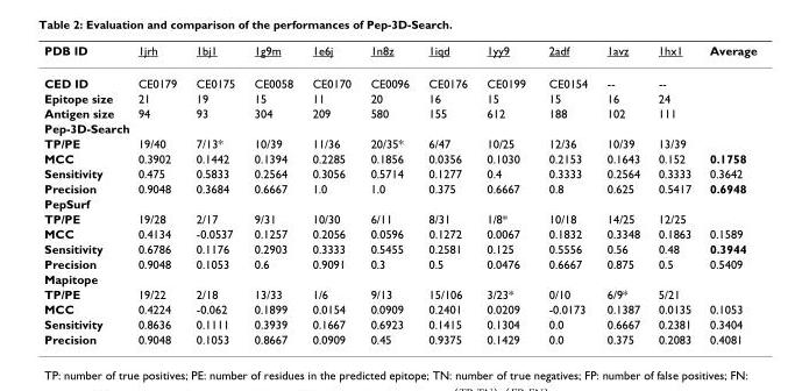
<table><thead><tr><td>PDB ID</td><td>1jrh</td><td>1bj1</td><td>1g9m</td><td>1e6j</td><td>1n8z</td><td>1iqd</td><td>1yy9</td><td>2adf</td><td>1avz</td><td>1hx1</td><td>Average</td></tr></thead><tbody><tr><td>CED ID</td><td>CE0179</td><td>CE0175</td><td>CE0058</td><td>CE0170</td><td>CE0096</td><td>CE0176</td><td>CE0199</td><td>CE0154</td><td>--</td><td>--</td><td></td></tr><tr><td>Epitope size</td><td>21</td><td>19</td><td>15</td><td>11</td><td>20</td><td>16</td><td>15</td><td>15</td><td>16</td><td>24</td><td></td></tr><tr><td>Antigen size</td><td>94</td><td>93</td><td>304</td><td>209</td><td>580</td><td>155</td><td>612</td><td>188</td><td>102</td><td>111</td><td></td></tr><tr><td colspan="12">Pep-3D-Search</td></tr><tr><td>TP/PE</td><td>19/40</td><td>7/13*</td><td>10/39</td><td>11/36</td><td>20/35*</td><td>6/47</td><td>10/25</td><td>12/36</td><td>10/39</td><td>13/39</td><td></td></tr><tr><td>MCC</td><td>0.3902</td><td>0.1442</td><td>0.1394</td><td>0.2285</td><td>0.1856</td><td>0.0356</td><td>0.1030</td><td>0.2153</td><td>0.1643</td><td>0.152</td><td>0.1758</td></tr><tr><td>Sensitivity</td><td>0.475</td><td>0.5833</td><td>0.2564</td><td>0.3056</td><td>0.5714</td><td>0.1277</td><td>0.4</td><td>0.3333</td><td>0.2564</td><td>0.3333</td><td>0.3642</td></tr><tr><td>Precision</td><td>0.9048</td><td>0.3684</td><td>0.6667</td><td>1.0</td><td>1.0</td><td>0.375</td><td>0.6667</td><td>0.8</td><td>0.625</td><td>0.5417</td><td>0.6948</td></tr><tr><td colspan="12">PepSurf</td></tr><tr><td>TP/PE</td><td>19/28</td><td>2/17</td><td>9/31</td><td>10/30</td><td>6/11</td><td>8/31</td><td>1/8*</td><td>10/18</td><td>14/25</td><td>12/25</td><td></td></tr><tr><td>MCC</td><td>0.4134</td><td>-0.0537</td><td>0.1257</td><td>0.2056</td><td>0.0596</td><td>0.1272</td><td>0.0067</td><td>0.1832</td><td>0.3348</td><td>0.1863</td><td>0.1589</td></tr><tr><td>Sensitivity</td><td>0.6786</td><td>0.1176</td><td>0.2903</td><td>0.3333</td><td>0.5455</td><td>0.2581</td><td>0.125</td><td>0.5556</td><td>0.56</td><td>0.48</td><td>0.3944</td></tr><tr><td>Precision</td><td>0.9048</td><td>0.1053</td><td>0.6</td><td>0.9091</td><td>0.3</td><td>0.5</td><td>0.0476</td><td>0.6667</td><td>0.875</td><td>0.5</td><td>0.5409</td></tr><tr><td colspan="12">Mapitope</td></tr><tr><td>TP/PE</td><td>19/22</td><td>2/18</td><td>13/33</td><td>1/6</td><td>9/13</td><td>15/106</td><td>3/23*</td><td>0/10</td><td>6/9*</td><td>5/21</td><td></td></tr><tr><td>MCC</td><td>0.4224</td><td>-0.062</td><td>0.1899</td><td>0.0154</td><td>0.0909</td><td>0.2401</td><td>0.0209</td><td>-0.0173</td><td>0.1387</td><td>0.0135</td><td>0.1053</td></tr><tr><td>Sensitivity</td><td>0.8636</td><td>0.1111</td><td>0.3939</td><td>0.1667</td><td>0.6923</td><td>0.1415</td><td>0.1304</td><td>0.0</td><td>0.6667</td><td>0.2381</td><td>0.3404</td></tr><tr><td>Precision</td><td>0.9048</td><td>0.1053</td><td>0.8667</td><td>0.0909</td><td>0.45</td><td>0.9375</td><td>0.1429</td><td>0.0</td><td>0.375</td><td>0.2083</td><td>0.4081</td></tr></tbody></table>